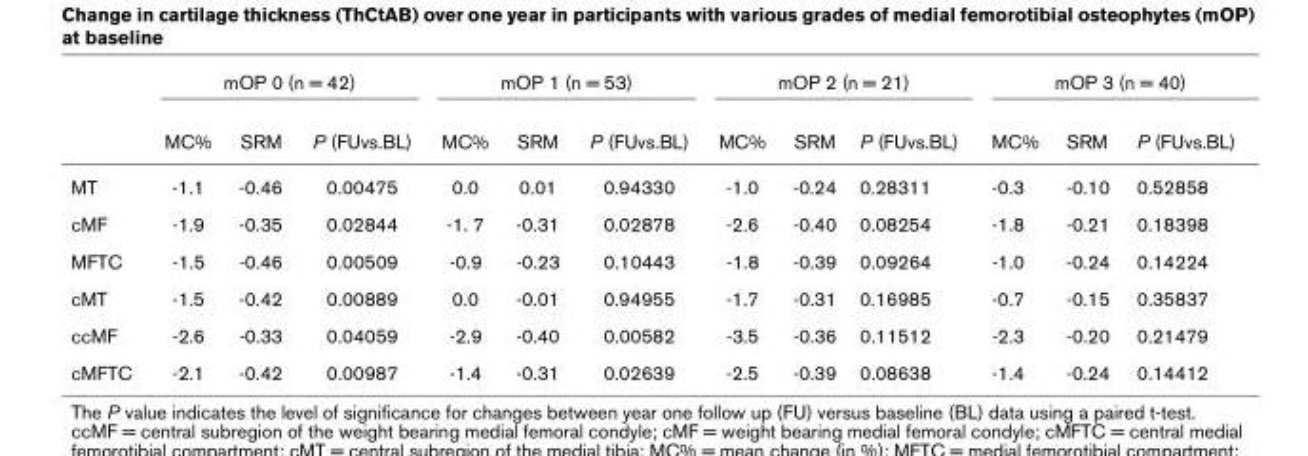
<table><thead><tr><td rowspan="2"></td><td colspan="3">mOP 0 (n = 42)</td><td colspan="3">mOP 1 (n = 53)</td><td colspan="3">mOP 2 (n = 21)</td><td colspan="3">mOP 3 (n = 40)</td></tr><tr><td>MC%</td><td>SRM</td><td>P (FUvs.BL)</td><td>MC%</td><td>SRM</td><td>P (FUvs.BL)</td><td>MC%</td><td>SRM</td><td>P (FUvs.BL)</td><td>MC%</td><td>SRM</td><td>P (FUvs.BL)</td></tr></thead><tbody><tr><td>MT</td><td>-1.1</td><td>-0.46</td><td>0.00475</td><td>0.0</td><td>0.01</td><td>0.94330</td><td>-1.0</td><td>-0.24</td><td>0.28311</td><td>-0.3</td><td>-0.10</td><td>0.52858</td></tr><tr><td>cMF</td><td>-1.9</td><td>-0.35</td><td>0.02844</td><td>-1. 7</td><td>-0.31</td><td>0.02878</td><td>-2.6</td><td>-0.40</td><td>0.08254</td><td>-1.8</td><td>-0.21</td><td>0.18398</td></tr><tr><td>MFTC</td><td>-1.5</td><td>-0.46</td><td>0.00509</td><td>-0.9</td><td>-0.23</td><td>0.10443</td><td>-1.8</td><td>-0.39</td><td>0.09264</td><td>-1.0</td><td>-0.24</td><td>0.14224</td></tr><tr><td>cMT</td><td>-1.5</td><td>-0.42</td><td>0.00889</td><td>0.0</td><td>-0.01</td><td>0.94955</td><td>-1.7</td><td>-0.31</td><td>0.16985</td><td>-0.7</td><td>-0.15</td><td>0.35837</td></tr><tr><td>ccMF</td><td>-2.6</td><td>-0.33</td><td>0.04059</td><td>-2.9</td><td>-0.40</td><td>0.00582</td><td>-3.5</td><td>-0.36</td><td>0.11512</td><td>-2.3</td><td>-0.20</td><td>0.21479</td></tr><tr><td>cMFTC</td><td>-2.1</td><td>-0.42</td><td>0.00987</td><td>-1.4</td><td>-0.31</td><td>0.02639</td><td>-2.5</td><td>-0.39</td><td>0.08638</td><td>-1.4</td><td>-0.24</td><td>0.14412</td></tr></tbody></table>